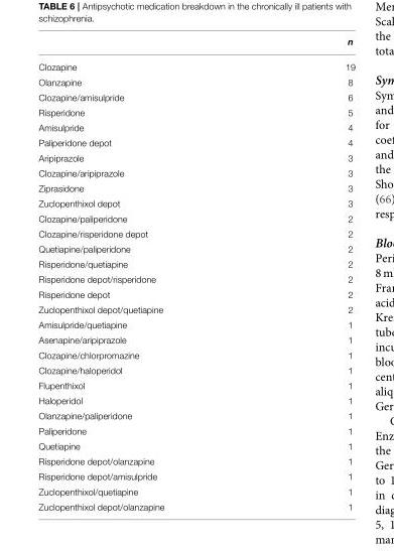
<table><thead><tr><td></td><td>n</td></tr></thead><tbody><tr><td>Clozapine</td><td>19</td></tr><tr><td>Olanzapine</td><td>8</td></tr><tr><td>Clozapine/amisulpride</td><td>6</td></tr><tr><td>Risperidone</td><td>5</td></tr><tr><td>Amisulpride</td><td>4</td></tr><tr><td>Paliperidone depot</td><td>4</td></tr><tr><td>Aripiprazole</td><td>3</td></tr><tr><td>Clozapine/aripiprazole</td><td>3</td></tr><tr><td>Ziprasidone</td><td>3</td></tr><tr><td>Zuclopenthixol depot</td><td>3</td></tr><tr><td>Clozapine/paliperidone</td><td>2</td></tr><tr><td>Clozapine/risperidone depot</td><td>2</td></tr><tr><td>Quetiapine/paliperidone</td><td>2</td></tr><tr><td>Risperidone/quetiapine</td><td>2</td></tr><tr><td>Risperidone depot/risperidone</td><td>2</td></tr><tr><td>Risperidone depot</td><td>2</td></tr><tr><td>Zuclopenthixol depot/quetiapine</td><td>2</td></tr><tr><td>Amisulpride/quetiapine</td><td>1</td></tr><tr><td>Asenapine/aripiprazole</td><td>1</td></tr><tr><td>Clozapine/chlorpromazine</td><td>1</td></tr><tr><td>Clozapine/haloperidol</td><td>1</td></tr><tr><td>Flupenthixol</td><td>1</td></tr><tr><td>Haloperidol</td><td>1</td></tr><tr><td>Olanzapine/paliperidone</td><td>1</td></tr><tr><td>Paliperidone</td><td>1</td></tr><tr><td>Quetiapine</td><td>1</td></tr><tr><td>Risperidone depot/olanzapine</td><td>1</td></tr><tr><td>Risperidone depot/amisulpride</td><td>1</td></tr><tr><td>Zuclopenthixol/quetiapine</td><td>1</td></tr><tr><td>Zuclopenthixol depot/olanzapine</td><td>1</td></tr></tbody></table>